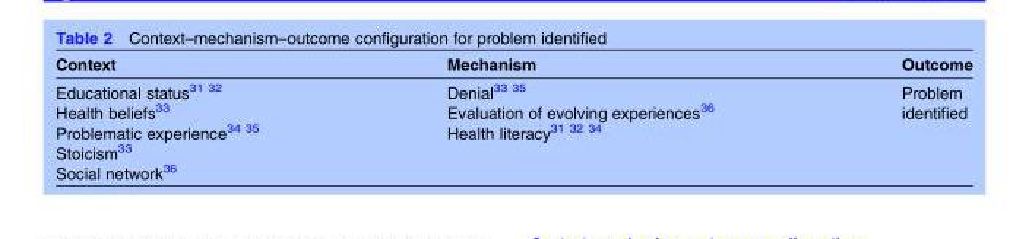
<table><thead><tr><td>Context</td><td>Mechanism</td><td>Outcome</td></tr></thead><tbody><tr><td>Educational status<sup>31 32</sup> Health beliefs<sup>33</sup> Problematic experience<sup>34 35</sup> Stoicism<sup>33</sup> Social network<sup>36</sup></td><td>Denial<sup>33 35</sup> Evaluation of evolving experiences<sup>36</sup> Health literacy<sup>31 32 34</sup></td><td>Problem identified</td></tr></tbody></table>